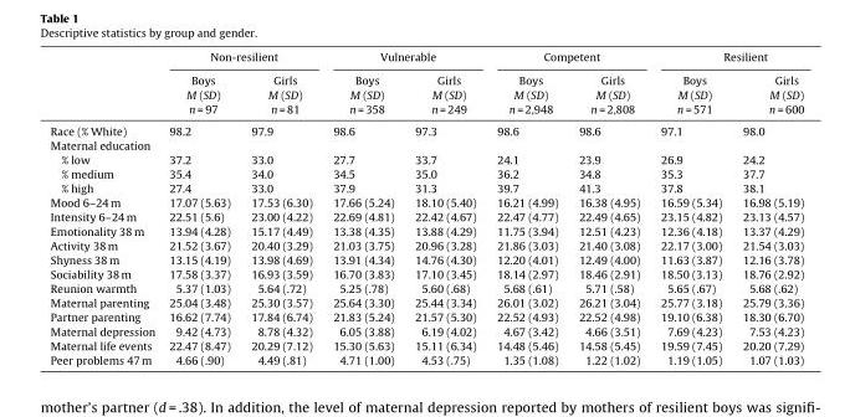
<table><thead><tr><td rowspan="4"></td><td colspan="2">Non-resilient</td><td colspan="2">Vulnerable</td><td colspan="2">Competent</td><td colspan="2">Resilient</td></tr><tr><td rowspan="3">Boys M (SD) n = 97</td><td rowspan="3">Girls M (SD) n = 81</td><td rowspan="3">Boys M (SD) n = 358</td><td rowspan="3">Girls M (SD) n = 249</td><td rowspan="3">Boys M (SD) n = 2,948</td><td rowspan="3">Girls M (SD) n = 2,808</td><td rowspan="3">Boys M (SD) n = 571</td><td rowspan="3">Girls M (SD) n = 600</td></tr><tr></tr><tr></tr></thead><tbody><tr><td>Race (% White)</td><td>98.2</td><td>97.9</td><td>98.6</td><td>97.3</td><td>98.6</td><td>98.6</td><td>97.1</td><td>98.0</td></tr><tr><td colspan="9">Maternal education</td></tr><tr><td>% low</td><td>37.2</td><td>33.0</td><td>27.7</td><td>33.7</td><td>24.1</td><td>23.9</td><td>26.9</td><td>24.2</td></tr><tr><td>% medium</td><td>35.4</td><td>34.0</td><td>34.5</td><td>35.0</td><td>36.2</td><td>34.8</td><td>35.3</td><td>37.7</td></tr><tr><td>% high</td><td>27.4</td><td>33.0</td><td>37.9</td><td>31.3</td><td>39.7</td><td>41.3</td><td>37.8</td><td>38.1</td></tr><tr><td>Mood 6–24 m</td><td>17.07 (5.63)</td><td>17.53 (6.30)</td><td>17.66 (5.24)</td><td>18.10 (5.40)</td><td>16.21 (4.99)</td><td>16.38 (4.95)</td><td>16.59 (5.34)</td><td>16.98 (5.19)</td></tr><tr><td>Intensity 6–24 m</td><td>22.51 (5.6)</td><td>23.00 (4.22)</td><td>22.69 (4.81)</td><td>22.42 (4.67)</td><td>22.47 (4.77)</td><td>22.49 (4.65)</td><td>23.15 (4.82)</td><td>23.13 (4.57)</td></tr><tr><td>Emotionality 38 m</td><td>13.94 (4.28)</td><td>15.17 (4.49)</td><td>13.38 (4.35)</td><td>13.88 (4.29)</td><td>11.75 (3.94)</td><td>12.51 (4.23)</td><td>12.36 (4.18)</td><td>13.37 (4.29)</td></tr><tr><td>Activity 38 m</td><td>21.52 (3.67)</td><td>20.40 (3.29)</td><td>21.03 (3.75)</td><td>20.96 (3.28)</td><td>21.86 (3.03)</td><td>21.40 (3.08)</td><td>22.17 (3.00)</td><td>21.54 (3.03)</td></tr><tr><td>Shyness 38 m</td><td>13.15 (4.19)</td><td>13.98 (4.69)</td><td>13.91 (4.34)</td><td>14.76 (4.30)</td><td>12.20 (4.01)</td><td>12.49 (4.00)</td><td>11.63 (3.87)</td><td>12.16 (3.78)</td></tr><tr><td>Sociability 38 m</td><td>17.58 (3.37)</td><td>16.93 (3.59)</td><td>16.70 (3.83)</td><td>17.10 (3.45)</td><td>18.14 (2.97)</td><td>18.46 (2.91)</td><td>18.50 (3.13)</td><td>18.76 (2.92)</td></tr><tr><td>Reunion warmth</td><td>5.37 (1.03)</td><td>5.64 (.72)</td><td>5.25 (.78)</td><td>5.60 (.68)</td><td>5.68 (.61)</td><td>5.71 (.58)</td><td>5.65 (.67)</td><td>5.68 (.62)</td></tr><tr><td>Maternal parenting</td><td>25.04 (3.48)</td><td>25.30 (3.57)</td><td>25.64 (3.30)</td><td>25.44 (3.34)</td><td>26.01 (3.02)</td><td>26.21 (3.04)</td><td>25.77 (3.18)</td><td>25.79 (3.36)</td></tr><tr><td>Partner parenting</td><td>16.62 (7.74)</td><td>17.84 (6.74)</td><td>21.83 (5.24)</td><td>21.57 (5.30)</td><td>22.52 (4.93)</td><td>22.52 (4.98)</td><td>19.10 (6.38)</td><td>18.30 (6.70)</td></tr><tr><td>Maternal depression</td><td>9.42 (4.73)</td><td>8.78 (4.32)</td><td>6.05 (3.88)</td><td>6.19 (4.02)</td><td>4.67 (3.42)</td><td>4.66 (3.51)</td><td>7.69 (4.23)</td><td>7.53 (4.23)</td></tr><tr><td>Maternal life events</td><td>22.47 (8.47)</td><td>20.29 (7.12)</td><td>15.30 (5.63)</td><td>15.11 (6.34)</td><td>14.48 (5.46)</td><td>14.58 (5.45)</td><td>19.59 (7.45)</td><td>20.20 (7.29)</td></tr><tr><td>Peer problems 47 m</td><td>4.66 (.90)</td><td>4.49 (.81)</td><td>4.71 (1.00)</td><td>4.53 (.75)</td><td>1.35 (1.08)</td><td>1.22 (1.02)</td><td>1.19 (1.05)</td><td>1.07 (1.03)</td></tr></tbody></table>